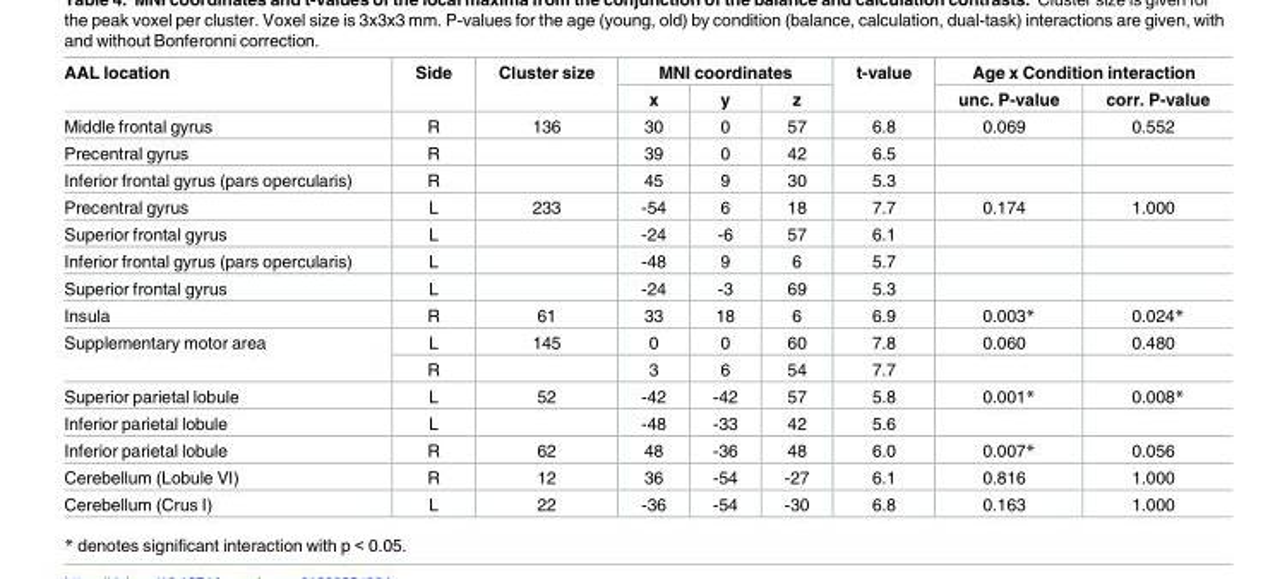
<table><thead><tr><td rowspan="2">AAL location</td><td rowspan="2">Side</td><td rowspan="2">Cluster size</td><td colspan="3">MNI coordinates</td><td rowspan="2">t-value</td><td colspan="2">Age x Condition interaction</td></tr><tr><td>x</td><td>y</td><td>z</td><td>unc. P-value</td><td>corr. P-value</td></tr></thead><tbody><tr><td>Middle frontal gyrus</td><td>R</td><td>136</td><td>30</td><td>0</td><td>57</td><td>6.8</td><td>0.069</td><td>0.552</td></tr><tr><td>Precentral gyrus</td><td>R</td><td></td><td>39</td><td>0</td><td>42</td><td>6.5</td><td></td><td></td></tr><tr><td>Inferior frontal gyrus (pars opercularis)</td><td>R</td><td></td><td>45</td><td>9</td><td>30</td><td>5.3</td><td></td><td></td></tr><tr><td>Precentral gyrus</td><td>L</td><td>233</td><td>-54</td><td>6</td><td>18</td><td>7.7</td><td>0.174</td><td>1.000</td></tr><tr><td>Superior frontal gyrus</td><td>L</td><td></td><td>-24</td><td>-6</td><td>57</td><td>6.1</td><td></td><td></td></tr><tr><td>Inferior frontal gyrus (pars opercularis)</td><td>L</td><td></td><td>-48</td><td>9</td><td>6</td><td>5.7</td><td></td><td></td></tr><tr><td>Superior frontal gyrus</td><td>L</td><td></td><td>-24</td><td>-3</td><td>69</td><td>5.3</td><td></td><td></td></tr><tr><td>Insula</td><td>R</td><td>61</td><td>33</td><td>18</td><td>6</td><td>6.9</td><td>0.003*</td><td>0.024*</td></tr><tr><td rowspan="2">Supplementary motor area</td><td>L</td><td>145</td><td>0</td><td>0</td><td>60</td><td>7.8</td><td>0.060</td><td>0.480</td></tr><tr><td>R</td><td></td><td>3</td><td>6</td><td>54</td><td>7.7</td><td></td><td></td></tr><tr><td>Superior parietal lobule</td><td>L</td><td>52</td><td>-42</td><td>-42</td><td>57</td><td>5.8</td><td>0.001*</td><td>0.008*</td></tr><tr><td>Inferior parietal lobule</td><td>L</td><td></td><td>-48</td><td>-33</td><td>42</td><td>5.6</td><td></td><td></td></tr><tr><td>Inferior parietal lobule</td><td>R</td><td>62</td><td>48</td><td>-36</td><td>48</td><td>6.0</td><td>0.007*</td><td>0.056</td></tr><tr><td>Cerebellum (Lobule VI)</td><td>R</td><td>12</td><td>36</td><td>-54</td><td>-27</td><td>6.1</td><td>0.816</td><td>1.000</td></tr><tr><td>Cerebellum (Crus I)</td><td>L</td><td>22</td><td>-36</td><td>-54</td><td>-30</td><td>6.8</td><td>0.163</td><td>1.000</td></tr></tbody></table>